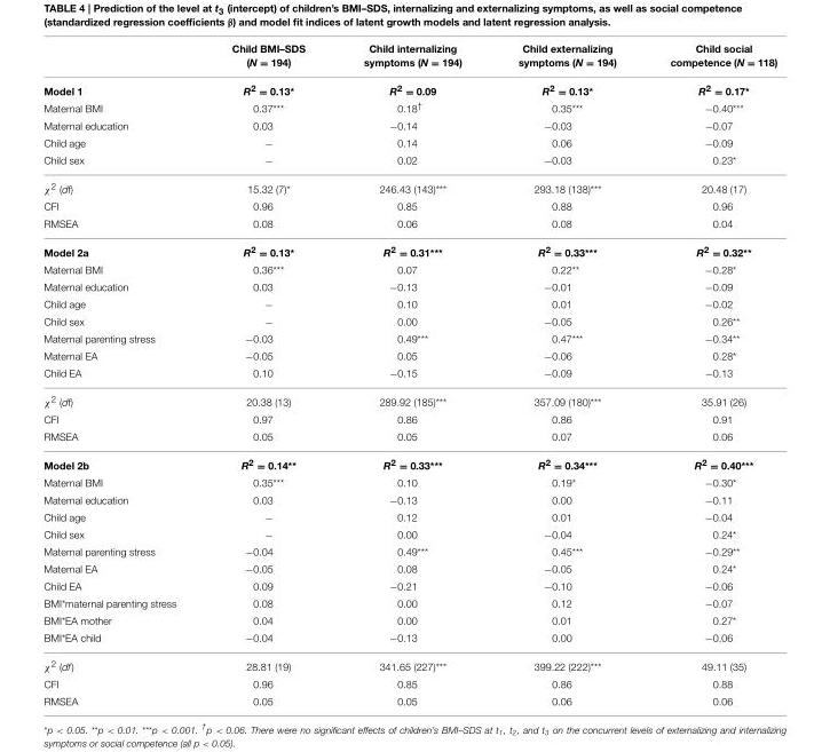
<table><thead><tr><td></td><td>Child BMI–SDS (N = 194)</td><td>Child internalizing symptoms (N = 194)</td><td>Child externalizing symptoms (N = 194)</td><td>Child social competence (N = 118)</td></tr></thead><tbody><tr><td>Model 1</td><td>R<sup>2</sup> = 0.13*</td><td>R<sup>2</sup> = 0.09</td><td>R<sup>2</sup> = 0.13*</td><td>R<sup>2</sup> = 0.17*</td></tr><tr><td>Maternal BMI</td><td>0.37***</td><td>0.18<sup>†</sup></td><td>0.35***</td><td>−0.40***</td></tr><tr><td>Maternal education</td><td>0.03</td><td>−0.14</td><td>−0.03</td><td>−0.07</td></tr><tr><td>Child age</td><td>−</td><td>0.14</td><td>0.06</td><td>−0.09</td></tr><tr><td>Child sex</td><td>−</td><td>0.02</td><td>−0.03</td><td>0.23*</td></tr><tr><td>χ<sup>2</sup> (df)</td><td>15.32 (7)*</td><td>246.43 (143)***</td><td>293.18 (138)***</td><td>20.48 (17)</td></tr><tr><td>CFI</td><td>0.96</td><td>0.85</td><td>0.88</td><td>0.96</td></tr><tr><td>RMSEA</td><td>0.08</td><td>0.06</td><td>0.08</td><td>0.04</td></tr><tr><td>Model 2a</td><td>R<sup>2</sup> = 0.13*</td><td>R<sup>2</sup> = 0.31***</td><td>R<sup>2</sup> = 0.33***</td><td>R<sup>2</sup> = 0.32**</td></tr><tr><td>Maternal BMI</td><td>0.36***</td><td>0.07</td><td>0.22**</td><td>−0.28*</td></tr><tr><td>Maternal education</td><td>0.03</td><td>−0.13</td><td>−0.01</td><td>−0.09</td></tr><tr><td>Child age</td><td>−</td><td>0.10</td><td>0.01</td><td>−0.02</td></tr><tr><td>Child sex</td><td>−</td><td>0.00</td><td>−0.05</td><td>0.26**</td></tr><tr><td>Maternal parenting stress</td><td>−0.03</td><td>0.49***</td><td>0.47***</td><td>−0.34**</td></tr><tr><td>Maternal EA</td><td>−0.05</td><td>0.05</td><td>−0.06</td><td>0.28*</td></tr><tr><td>Child EA</td><td>0.10</td><td>−0.15</td><td>−0.09</td><td>−0.13</td></tr><tr><td>χ<sup>2</sup> (df)</td><td>20.38 (13)</td><td>289.92 (185)***</td><td>357.09 (180)***</td><td>35.91 (26)</td></tr><tr><td>CFI</td><td>0.97</td><td>0.86</td><td>0.86</td><td>0.91</td></tr><tr><td>RMSEA</td><td>0.05</td><td>0.05</td><td>0.07</td><td>0.06</td></tr><tr><td>Model 2b</td><td>R<sup>2</sup> = 0.14**</td><td>R<sup>2</sup> = 0.33***</td><td>R<sup>2</sup> = 0.34***</td><td>R<sup>2</sup> = 0.40***</td></tr><tr><td>Maternal BMI</td><td>0.35***</td><td>0.10</td><td>0.19*</td><td>−0.30*</td></tr><tr><td>Maternal education</td><td>0.03</td><td>−0.13</td><td>0.00</td><td>−0.11</td></tr><tr><td>Child age</td><td>−</td><td>0.12</td><td>0.01</td><td>−0.04</td></tr><tr><td>Child sex</td><td>−</td><td>0.00</td><td>−0.04</td><td>0.24*</td></tr><tr><td>Maternal parenting stress</td><td>−0.04</td><td>0.49***</td><td>0.45***</td><td>−0.29**</td></tr><tr><td>Maternal EA</td><td>−0.05</td><td>0.08</td><td>−0.05</td><td>0.24*</td></tr><tr><td>Child EA</td><td>0.09</td><td>−0.21</td><td>−0.10</td><td>−0.06</td></tr><tr><td>BMI*maternal parenting stress</td><td>0.08</td><td>0.00</td><td>0.12</td><td>−0.07</td></tr><tr><td>BMI*EA mother</td><td>0.04</td><td>0.00</td><td>0.01</td><td>0.27*</td></tr><tr><td>BMI*EA child</td><td>−0.04</td><td>−0.13</td><td>0.00</td><td>−0.06</td></tr><tr><td>χ<sup>2</sup> (df)</td><td>28.81 (19)</td><td>341.65 (227)***</td><td>399.22 (222)***</td><td>49.11 (35)</td></tr><tr><td>CFI</td><td>0.96</td><td>0.85</td><td>0.86</td><td>0.88</td></tr><tr><td>RMSEA</td><td>0.05</td><td>0.05</td><td>0.06</td><td>0.06</td></tr></tbody></table>